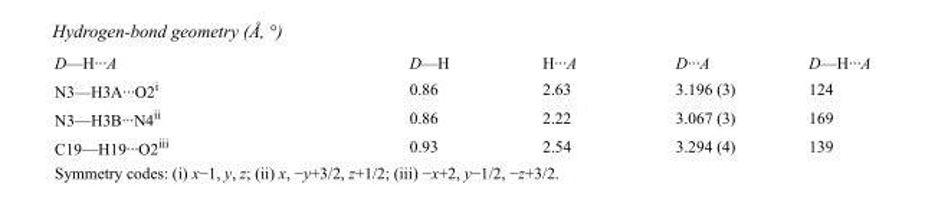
<table><tbody><tr><td>D—H···A</td><td>D—H</td><td>H···A</td><td>D···A</td><td>D—H···A</td></tr><tr><td>N3—H3A···O2<sup>i</sup></td><td>0.86</td><td>2.63</td><td>3.196 (3)</td><td>124</td></tr><tr><td>N3—H3B···N4<sup>ii</sup></td><td>0.86</td><td>2.22</td><td>3.067 (3)</td><td>169</td></tr><tr><td>C19—H19···O2<sup>iii</sup></td><td>0.93</td><td>2.54</td><td>3.294 (4)</td><td>139</td></tr></tbody></table>